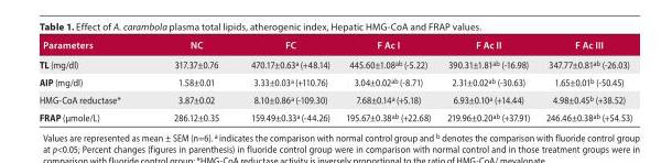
<table><thead><tr><td>Parameters</td><td>NC</td><td>FC</td><td>F Ac I</td><td>F Ac II</td><td>F Ac III</td></tr></thead><tbody><tr><td>TL (mg/dl)</td><td>317.37±0.76</td><td>470.17±0.63<sup>a</sup> (+48.14)</td><td>445.60±1.08<sup>ab</sup> (-5.22)</td><td>390.31±1.81<sup>ab</sup> (-16.98)</td><td>347.77±0.81<sup>ab</sup> (-26.03)</td></tr><tr><td>AIP (mg/dl)</td><td>1.58±0.01</td><td>3.33±0.03<sup>a</sup> (+110.76)</td><td>3.04±0.02<sup>ab</sup> (-8.71)</td><td>2.31±0.02<sup>ab</sup> (-30.63)</td><td>1.65±0.01<sup>b</sup> (-50.45)</td></tr><tr><td>HMG-CoA reductase*</td><td>3.87±0.02</td><td>8.10±0.86<sup>a</sup> (-109.30)</td><td>7.68±0.14<sup>a</sup> (+5.18)</td><td>6.93±0.10<sup>a</sup> (+14.44)</td><td>4.98±0.45<sup>b</sup> (+38.52)</td></tr><tr><td>FRAP (μmole/L)</td><td>286.12±0.35</td><td>159.49±0.33<sup>a</sup> (-44.26)</td><td>195.67±0.38<sup>ab</sup> (+22.68)</td><td>219.96±0.20<sup>ab</sup> (+37.91)</td><td>246.46±0.38<sup>ab</sup> (+54.53)</td></tr></tbody></table>